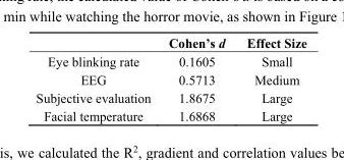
<table><thead><tr><td></td><td>Cohen’s d</td><td>Effect Size</td></tr></thead><tbody><tr><td>Eye blinking rate</td><td>0.1605</td><td>Small</td></tr><tr><td>EEG</td><td>0.5713</td><td>Medium</td></tr><tr><td>Subjective evaluation</td><td>1.8675</td><td>Large</td></tr><tr><td>Facial temperature</td><td>1.6868</td><td>Large</td></tr></tbody></table>